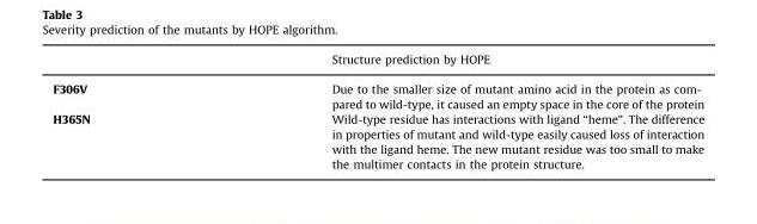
<table><thead><tr><td></td><td>Structure prediction by HOPE</td></tr></thead><tbody><tr><td>F306V</td><td>Due to the smaller size of mutant amino acid in the protein as com- pared to wild-type, it caused an empty space in the core of the protein</td></tr><tr><td>H365N</td><td>Wild-type residue has interactions with ligand “heme”. The difference in properties of mutant and wild-type easily caused loss of interaction with the ligand heme. The new mutant residue was too small to make the multimer contacts in the protein structure.</td></tr></tbody></table>